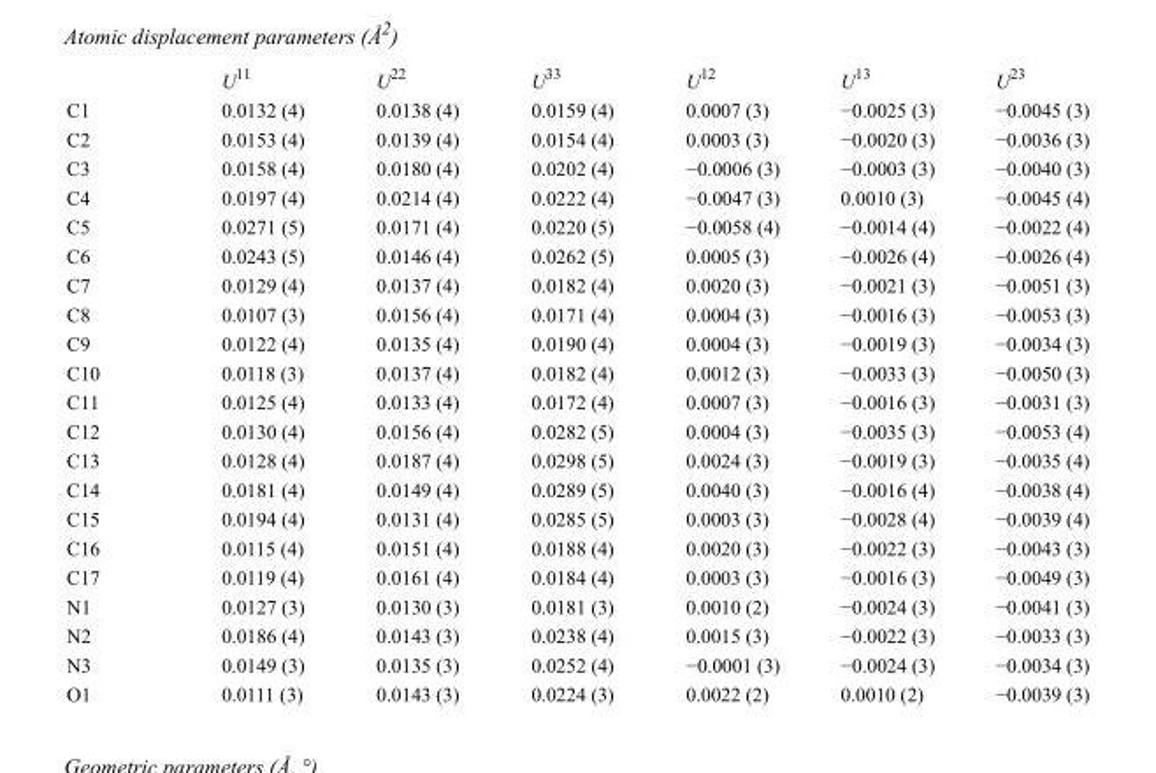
<table><thead><tr><td></td><td>U<sup>11</sup></td><td>U<sup>22</sup></td><td>U<sup>33</sup></td><td>U<sup>12</sup></td><td>U<sup>13</sup></td><td>U<sup>23</sup></td></tr></thead><tbody><tr><td>C1</td><td>0.0132 (4)</td><td>0.0138 (4)</td><td>0.0159 (4)</td><td>0.0007 (3)</td><td>−0.0025 (3)</td><td>−0.0045 (3)</td></tr><tr><td>C2</td><td>0.0153 (4)</td><td>0.0139 (4)</td><td>0.0154 (4)</td><td>0.0003 (3)</td><td>−0.0020 (3)</td><td>−0.0036 (3)</td></tr><tr><td>C3</td><td>0.0158 (4)</td><td>0.0180 (4)</td><td>0.0202 (4)</td><td>−0.0006 (3)</td><td>−0.0003 (3)</td><td>−0.0040 (3)</td></tr><tr><td>C4</td><td>0.0197 (4)</td><td>0.0214 (4)</td><td>0.0222 (4)</td><td>−0.0047 (3)</td><td>0.0010 (3)</td><td>−0.0045 (4)</td></tr><tr><td>C5</td><td>0.0271 (5)</td><td>0.0171 (4)</td><td>0.0220 (5)</td><td>−0.0058 (4)</td><td>−0.0014 (4)</td><td>−0.0022 (4)</td></tr><tr><td>C6</td><td>0.0243 (5)</td><td>0.0146 (4)</td><td>0.0262 (5)</td><td>0.0005 (3)</td><td>−0.0026 (4)</td><td>−0.0026 (4)</td></tr><tr><td>C7</td><td>0.0129 (4)</td><td>0.0137 (4)</td><td>0.0182 (4)</td><td>0.0020 (3)</td><td>−0.0021 (3)</td><td>−0.0051 (3)</td></tr><tr><td>C8</td><td>0.0107 (3)</td><td>0.0156 (4)</td><td>0.0171 (4)</td><td>0.0004 (3)</td><td>−0.0016 (3)</td><td>−0.0053 (3)</td></tr><tr><td>C9</td><td>0.0122 (4)</td><td>0.0135 (4)</td><td>0.0190 (4)</td><td>0.0004 (3)</td><td>−0.0019 (3)</td><td>−0.0034 (3)</td></tr><tr><td>C10</td><td>0.0118 (3)</td><td>0.0137 (4)</td><td>0.0182 (4)</td><td>0.0012 (3)</td><td>−0.0033 (3)</td><td>−0.0050 (3)</td></tr><tr><td>C11</td><td>0.0125 (4)</td><td>0.0133 (4)</td><td>0.0172 (4)</td><td>0.0007 (3)</td><td>−0.0016 (3)</td><td>−0.0031 (3)</td></tr><tr><td>C12</td><td>0.0130 (4)</td><td>0.0156 (4)</td><td>0.0282 (5)</td><td>0.0004 (3)</td><td>−0.0035 (3)</td><td>−0.0053 (4)</td></tr><tr><td>C13</td><td>0.0128 (4)</td><td>0.0187 (4)</td><td>0.0298 (5)</td><td>0.0024 (3)</td><td>−0.0019 (3)</td><td>−0.0035 (4)</td></tr><tr><td>C14</td><td>0.0181 (4)</td><td>0.0149 (4)</td><td>0.0289 (5)</td><td>0.0040 (3)</td><td>−0.0016 (4)</td><td>−0.0038 (4)</td></tr><tr><td>C15</td><td>0.0194 (4)</td><td>0.0131 (4)</td><td>0.0285 (5)</td><td>0.0003 (3)</td><td>−0.0028 (4)</td><td>−0.0039 (4)</td></tr><tr><td>C16</td><td>0.0115 (4)</td><td>0.0151 (4)</td><td>0.0188 (4)</td><td>0.0020 (3)</td><td>−0.0022 (3)</td><td>−0.0043 (3)</td></tr><tr><td>C17</td><td>0.0119 (4)</td><td>0.0161 (4)</td><td>0.0184 (4)</td><td>0.0003 (3)</td><td>−0.0016 (3)</td><td>−0.0049 (3)</td></tr><tr><td>N1</td><td>0.0127 (3)</td><td>0.0130 (3)</td><td>0.0181 (3)</td><td>0.0010 (2)</td><td>−0.0024 (3)</td><td>−0.0041 (3)</td></tr><tr><td>N2</td><td>0.0186 (4)</td><td>0.0143 (3)</td><td>0.0238 (4)</td><td>0.0015 (3)</td><td>−0.0022 (3)</td><td>−0.0033 (3)</td></tr><tr><td>N3</td><td>0.0149 (3)</td><td>0.0135 (3)</td><td>0.0252 (4)</td><td>−0.0001 (3)</td><td>−0.0024 (3)</td><td>−0.0034 (3)</td></tr><tr><td>O1</td><td>0.0111 (3)</td><td>0.0143 (3)</td><td>0.0224 (3)</td><td>0.0022 (2)</td><td>0.0010 (2)</td><td>−0.0039 (3)</td></tr></tbody></table>